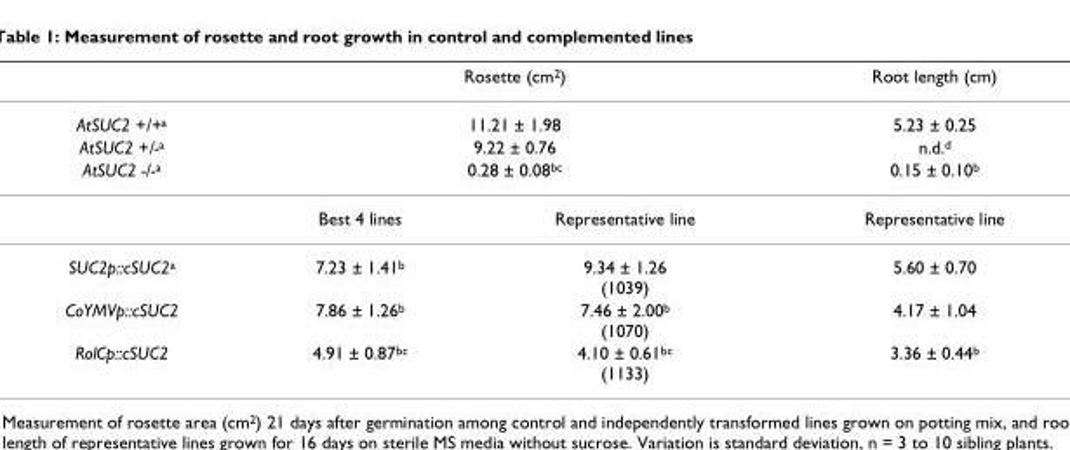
<table><thead><tr><td></td><td colspan="2">Rosette (cm<sup>2</sup>)</td><td>Root length (cm)</td></tr></thead><tbody><tr><td>AtSUC2 +/+<sup>a</sup></td><td colspan="2">11.21 ± 1.98</td><td>5.23 ± 0.25</td></tr><tr><td>AtSUC2 +/-<sup>a</sup></td><td colspan="2">9.22 ± 0.76</td><td>n.d.<sup>d</sup></td></tr><tr><td rowspan="2">AtSUC2 -/-<sup>a</sup></td><td colspan="2">0.28 ± 0.08<sup>bc</sup></td><td>0.15 ± 0.10<sup>b</sup></td></tr><tr><td>Best 4 lines</td><td>Representative line</td><td>Representative line</td></tr><tr><td>SUC2p::cSUC2<sup>a</sup></td><td>7.23 ± 1.41<sup>b</sup></td><td>9.34 ± 1.26 (1039)</td><td>5.60 ± 0.70</td></tr><tr><td>CoYMVp::cSUC2</td><td>7.86 ± 1.26<sup>b</sup></td><td>7.46 ± 2.00<sup>b</sup> (1070)</td><td>4.17 ± 1.04</td></tr><tr><td>RolCp::cSUC2</td><td>4.91 ± 0.87<sup>bc</sup></td><td>4.10 ± 0.61<sup>bc</sup> (1133)</td><td>3.36 ± 0.44<sup>b</sup></td></tr></tbody></table>